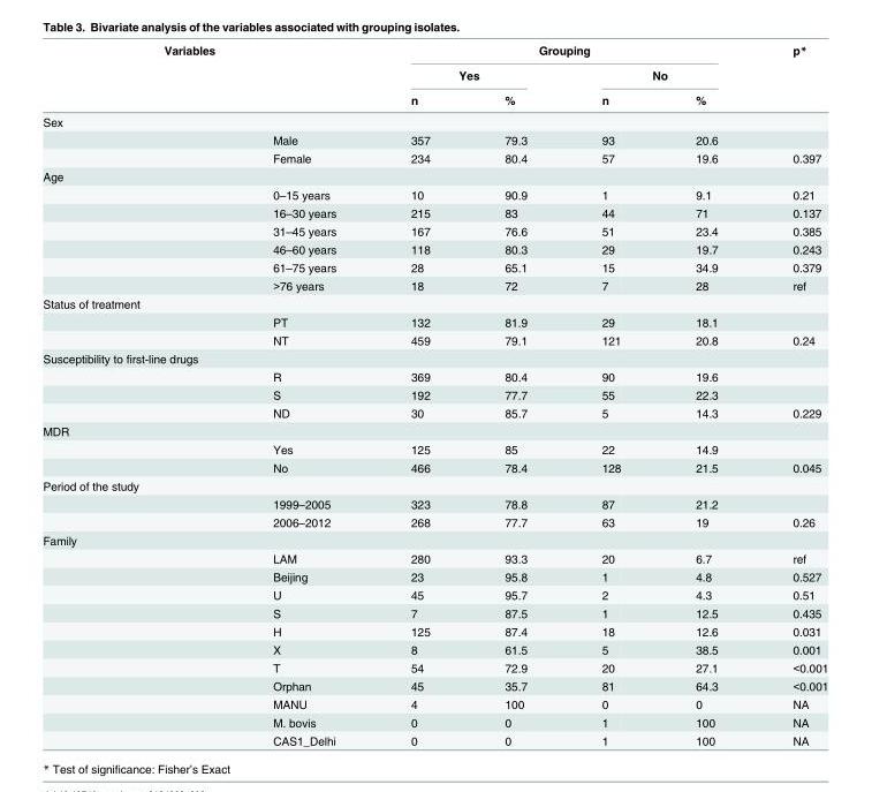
<table><thead><tr><td colspan="2">Variables</td><td colspan="4">Grouping</td><td rowspan="3">p*</td></tr><tr><td rowspan="2"></td><td rowspan="2"></td><td colspan="2">Yes</td><td colspan="2">No</td></tr><tr><td>n</td><td>%</td><td>n</td><td>%</td></tr></thead><tbody><tr><td colspan="7">Sex</td></tr><tr><td></td><td>Male</td><td>357</td><td>79.3</td><td>93</td><td>20.6</td><td></td></tr><tr><td></td><td>Female</td><td>234</td><td>80.4</td><td>57</td><td>19.6</td><td>0.397</td></tr><tr><td colspan="7">Age</td></tr><tr><td></td><td>0–15 years</td><td>10</td><td>90.9</td><td>1</td><td>9.1</td><td>0.21</td></tr><tr><td></td><td>16–30 years</td><td>215</td><td>83</td><td>44</td><td>71</td><td>0.137</td></tr><tr><td></td><td>31–45 years</td><td>167</td><td>76.6</td><td>51</td><td>23.4</td><td>0.385</td></tr><tr><td></td><td>46–60 years</td><td>118</td><td>80.3</td><td>29</td><td>19.7</td><td>0.243</td></tr><tr><td></td><td>61–75 years</td><td>28</td><td>65.1</td><td>15</td><td>34.9</td><td>0.379</td></tr><tr><td></td><td>&gt;76 years</td><td>18</td><td>72</td><td>7</td><td>28</td><td>ref</td></tr><tr><td colspan="7">Status of treatment</td></tr><tr><td></td><td>PT</td><td>132</td><td>81.9</td><td>29</td><td>18.1</td><td></td></tr><tr><td></td><td>NT</td><td>459</td><td>79.1</td><td>121</td><td>20.8</td><td>0.24</td></tr><tr><td colspan="7">Susceptibility to first-line drugs</td></tr><tr><td></td><td>R</td><td>369</td><td>80.4</td><td>90</td><td>19.6</td><td></td></tr><tr><td></td><td>S</td><td>192</td><td>77.7</td><td>55</td><td>22.3</td><td></td></tr><tr><td></td><td>ND</td><td>30</td><td>85.7</td><td>5</td><td>14.3</td><td>0.229</td></tr><tr><td colspan="7">MDR</td></tr><tr><td></td><td>Yes</td><td>125</td><td>85</td><td>22</td><td>14.9</td><td></td></tr><tr><td></td><td>No</td><td>466</td><td>78.4</td><td>128</td><td>21.5</td><td>0.045</td></tr><tr><td colspan="7">Period of the study</td></tr><tr><td></td><td>1999–2005</td><td>323</td><td>78.8</td><td>87</td><td>21.2</td><td></td></tr><tr><td></td><td>2006–2012</td><td>268</td><td>77.7</td><td>63</td><td>19</td><td>0.26</td></tr><tr><td colspan="7">Family</td></tr><tr><td></td><td>LAM</td><td>280</td><td>93.3</td><td>20</td><td>6.7</td><td>ref</td></tr><tr><td></td><td>Beijing</td><td>23</td><td>95.8</td><td>1</td><td>4.8</td><td>0.527</td></tr><tr><td></td><td>U</td><td>45</td><td>95.7</td><td>2</td><td>4.3</td><td>0.51</td></tr><tr><td></td><td>S</td><td>7</td><td>87.5</td><td>1</td><td>12.5</td><td>0.435</td></tr><tr><td></td><td>H</td><td>125</td><td>87.4</td><td>18</td><td>12.6</td><td>0.031</td></tr><tr><td></td><td>X</td><td>8</td><td>61.5</td><td>5</td><td>38.5</td><td>0.001</td></tr><tr><td></td><td>T</td><td>54</td><td>72.9</td><td>20</td><td>27.1</td><td>&lt;0.001</td></tr><tr><td></td><td>Orphan</td><td>45</td><td>35.7</td><td>81</td><td>64.3</td><td>&lt;0.001</td></tr><tr><td></td><td>MANU</td><td>4</td><td>100</td><td>0</td><td>0</td><td>NA</td></tr><tr><td></td><td>M. bovis</td><td>0</td><td>0</td><td>1</td><td>100</td><td>NA</td></tr><tr><td></td><td>CAS1_Delhi</td><td>0</td><td>0</td><td>1</td><td>100</td><td>NA</td></tr></tbody></table>